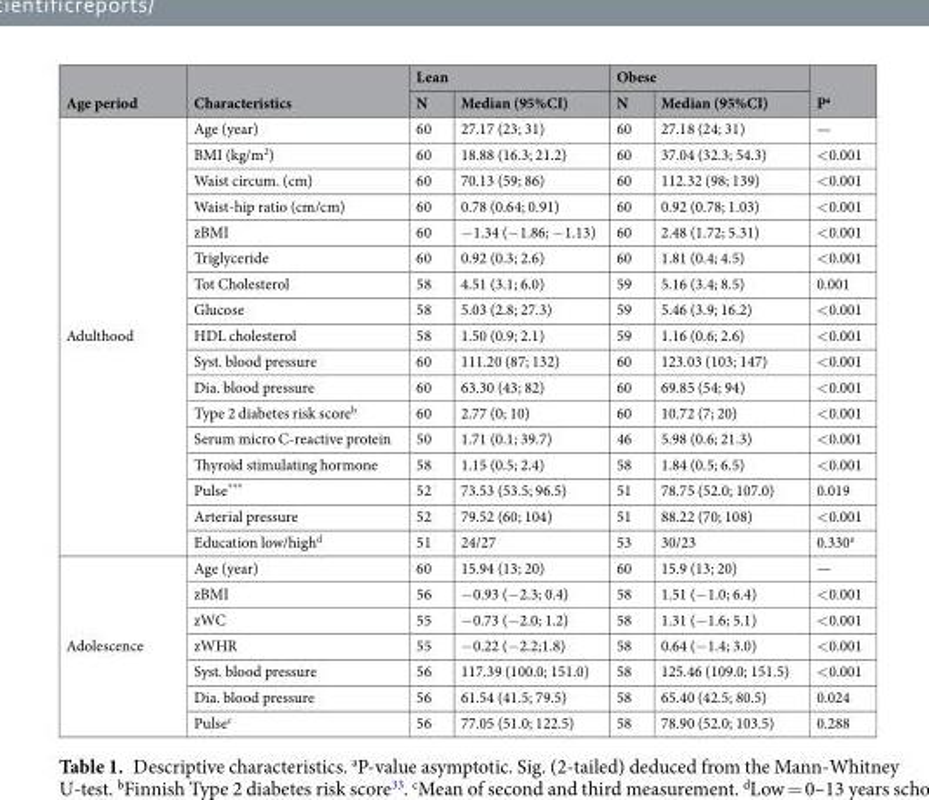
<table><thead><tr><td rowspan="2">Age period</td><td rowspan="2">Characteristics</td><td colspan="2">Lean</td><td colspan="2">Obese</td><td rowspan="2">P<sup>a</sup></td></tr><tr><td>N</td><td>Median (95%CI)</td><td>N</td><td>Median (95%CI)</td></tr></thead><tbody><tr><td rowspan="17">Adulthood</td><td>Age (year)</td><td>60</td><td>27.17 (23; 31)</td><td>60</td><td>27.18 (24; 31)</td><td>—</td></tr><tr><td>BMI (kg/m<sup>2</sup>)</td><td>60</td><td>18.88 (16.3; 21.2)</td><td>60</td><td>37.04 (32.3; 54.3)</td><td>&lt;0.001</td></tr><tr><td>Waist circum. (cm)</td><td>60</td><td>70.13 (59; 86)</td><td>60</td><td>112.32 (98; 139)</td><td>&lt;0.001</td></tr><tr><td>Waist-hip ratio (cm/cm)</td><td>60</td><td>0.78 (0.64; 0.91)</td><td>60</td><td>0.92 (0.78; 1.03)</td><td>&lt;0.001</td></tr><tr><td>zBMI</td><td>60</td><td>−1.34 (−1.86; −1.13)</td><td>60</td><td>2.48 (1.72; 5.31)</td><td>&lt;0.001</td></tr><tr><td>Triglyceride</td><td>60</td><td>0.92 (0.3; 2.6)</td><td>60</td><td>1.81 (0.4; 4.5)</td><td>&lt;0.001</td></tr><tr><td>Tot Cholesterol</td><td>58</td><td>4.51 (3.1; 6.0)</td><td>59</td><td>5.16 (3.4; 8.5)</td><td>0.001</td></tr><tr><td>Glucose</td><td>58</td><td>5.03 (2.8; 27.3)</td><td>59</td><td>5.46 (3.9; 16.2)</td><td>&lt;0.001</td></tr><tr><td>HDL cholesterol</td><td>58</td><td>1.50 (0.9; 2.1)</td><td>59</td><td>1.16 (0.6; 2.6)</td><td>&lt;0.001</td></tr><tr><td>Syst. blood pressure</td><td>60</td><td>111.20 (87; 132)</td><td>60</td><td>123.03 (103; 147)</td><td>&lt;0.001</td></tr><tr><td>Dia. blood pressure</td><td>60</td><td>63.30 (43; 82)</td><td>60</td><td>69.85 (54; 94)</td><td>&lt;0.001</td></tr><tr><td>Type 2 diabetes risk score<sup>b</sup></td><td>60</td><td>2.77 (0; 10)</td><td>60</td><td>10.72 (7; 20)</td><td>&lt;0.001</td></tr><tr><td>Serum micro C-reactive protein</td><td>50</td><td>1.71 (0.1; 39.7)</td><td>46</td><td>5.98 (0.6; 21.3)</td><td>&lt;0.001</td></tr><tr><td>Thyroid stimulating hormone</td><td>58</td><td>1.15 (0.5; 2.4)</td><td>58</td><td>1.84 (0.5; 6.5)</td><td>&lt;0.001</td></tr><tr><td>Pulse***</td><td>52</td><td>73.53 (53.5; 96.5)</td><td>51</td><td>78.75 (52.0; 107.0)</td><td>0.019</td></tr><tr><td>Arterial pressure</td><td>52</td><td>79.52 (60; 104)</td><td>51</td><td>88.22 (70; 108)</td><td>&lt;0.001</td></tr><tr><td>Education low/high<sup>d</sup></td><td>51</td><td>24/27</td><td>53</td><td>30/23</td><td>0.330<sup>e</sup></td></tr><tr><td rowspan="7">Adolescence</td><td>Age (year)</td><td>60</td><td>15.94 (13; 20)</td><td>60</td><td>15.9 (13; 20)</td><td>—</td></tr><tr><td>zBMI</td><td>56</td><td>−0.93 (−2.3; 0.4)</td><td>58</td><td>1.51 (−1.0; 6.4)</td><td>&lt;0.001</td></tr><tr><td>zWC</td><td>55</td><td>−0.73 (−2.0; 1.2)</td><td>58</td><td>1.31 (−1.6; 5.1)</td><td>&lt;0.001</td></tr><tr><td>zWHR</td><td>55</td><td>−0.22 (−2.2;1.8)</td><td>58</td><td>0.64 (−1.4; 3.0)</td><td>&lt;0.001</td></tr><tr><td>Syst. blood pressure</td><td>56</td><td>117.39 (100.0; 151.0)</td><td>58</td><td>125.46 (109.0; 151.5)</td><td>&lt;0.001</td></tr><tr><td>Dia. blood pressure</td><td>56</td><td>61.54 (41.5; 79.5)</td><td>58</td><td>65.40 (42.5; 80.5)</td><td>0.024</td></tr><tr><td>Pulse<sup>c</sup></td><td>56</td><td>77.05 (51.0; 122.5)</td><td>58</td><td>78.90 (52.0; 103.5)</td><td>0.288</td></tr></tbody></table>